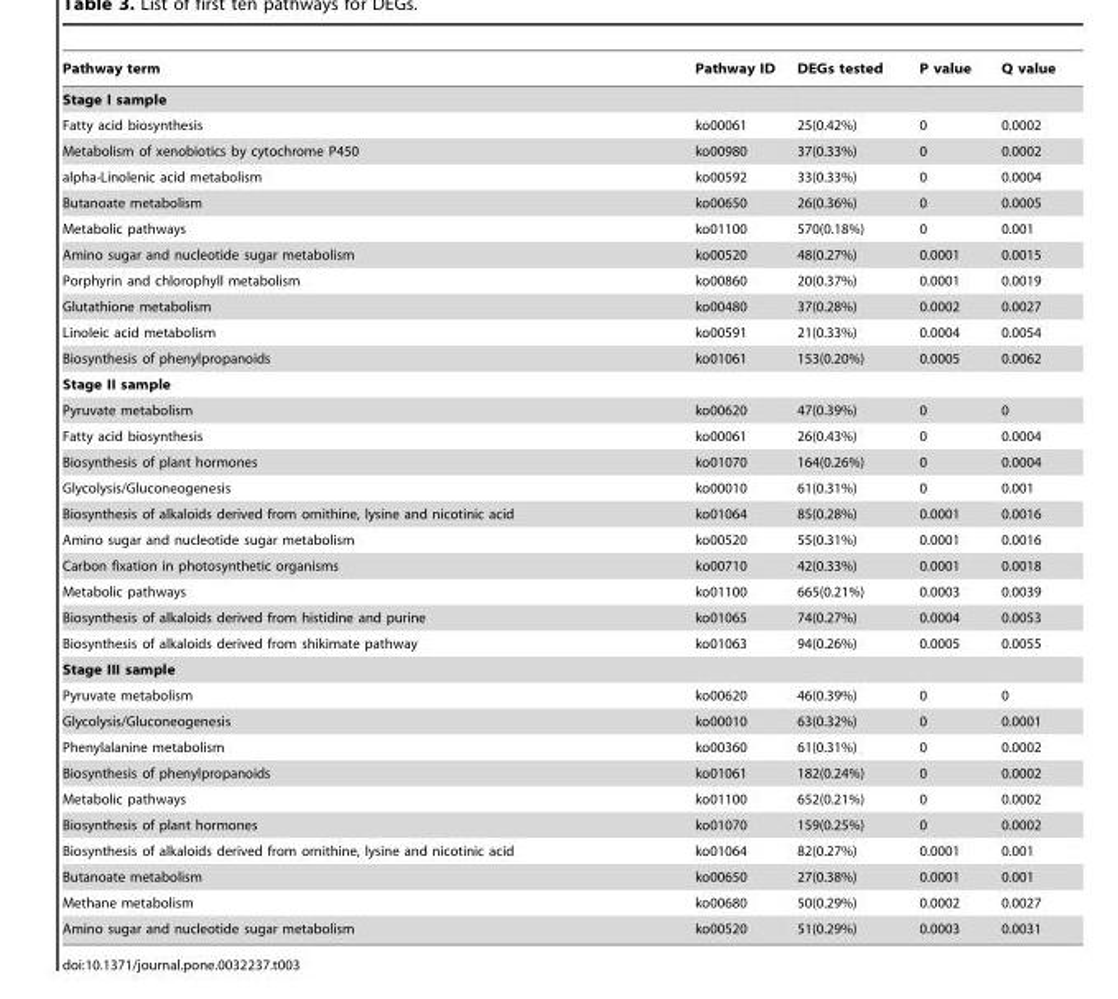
<table><thead><tr><td>Pathway term</td><td>Pathway ID</td><td>DEGs tested</td><td>P value</td><td>Q value</td></tr></thead><tbody><tr><td colspan="5">Stage I sample</td></tr><tr><td>Fatty acid biosynthesis</td><td>ko00061</td><td>25(0.42%)</td><td>0</td><td>0.0002</td></tr><tr><td>Metabolism of xenobiotics by cytochrome P450</td><td>ko00980</td><td>37(0.33%)</td><td>0</td><td>0.0002</td></tr><tr><td>alpha-Linolenic acid metabolism</td><td>ko00592</td><td>33(0.33%)</td><td>0</td><td>0.0004</td></tr><tr><td>Butanoate metabolism</td><td>ko00650</td><td>26(0.36%)</td><td>0</td><td>0.0005</td></tr><tr><td>Metabolic pathways</td><td>ko01100</td><td>570(0.18%)</td><td>0</td><td>0.001</td></tr><tr><td>Amino sugar and nucleotide sugar metabolism</td><td>ko00520</td><td>48(0.27%)</td><td>0.0001</td><td>0.0015</td></tr><tr><td>Porphyrin and chlorophyll metabolism</td><td>ko00860</td><td>20(0.37%)</td><td>0.0001</td><td>0.0019</td></tr><tr><td>Glutathione metabolism</td><td>ko00480</td><td>37(0.28%)</td><td>0.0002</td><td>0.0027</td></tr><tr><td>Linoleic acid metabolism</td><td>ko00591</td><td>21(0.33%)</td><td>0.0004</td><td>0.0054</td></tr><tr><td>Biosynthesis of phenylpropanoids</td><td>ko01061</td><td>153(0.20%)</td><td>0.0005</td><td>0.0062</td></tr><tr><td colspan="5">Stage II sample</td></tr><tr><td>Pyruvate metabolism</td><td>ko00620</td><td>47(0.39%)</td><td>0</td><td>0</td></tr><tr><td>Fatty acid biosynthesis</td><td>ko00061</td><td>26(0.43%)</td><td>0</td><td>0.0004</td></tr><tr><td>Biosynthesis of plant hormones</td><td>ko01070</td><td>164(0.26%)</td><td>0</td><td>0.0004</td></tr><tr><td>Glycolysis/Gluconeogenesis</td><td>ko00010</td><td>61(0.31%)</td><td>0</td><td>0.001</td></tr><tr><td>Biosynthesis of alkaloids derived from ornithine, lysine and nicotinic acid</td><td>ko01064</td><td>85(0.28%)</td><td>0.0001</td><td>0.0016</td></tr><tr><td>Amino sugar and nucleotide sugar metabolism</td><td>ko00520</td><td>55(0.31%)</td><td>0.0001</td><td>0.0016</td></tr><tr><td>Carbon fixation in photosynthetic organisms</td><td>ko00710</td><td>42(0.33%)</td><td>0.0001</td><td>0.0018</td></tr><tr><td>Metabolic pathways</td><td>ko01100</td><td>665(0.21%)</td><td>0.0003</td><td>0.0039</td></tr><tr><td>Biosynthesis of alkaloids derived from histidine and purine</td><td>ko01065</td><td>74(0.27%)</td><td>0.0004</td><td>0.0053</td></tr><tr><td>Biosynthesis of alkaloids derived from shikimate pathway</td><td>ko01063</td><td>94(0.26%)</td><td>0.0005</td><td>0.0055</td></tr><tr><td colspan="5">Stage III sample</td></tr><tr><td>Pyruvate metabolism</td><td>ko00620</td><td>46(0.39%)</td><td>0</td><td>0</td></tr><tr><td>Glycolysis/Gluconeogenesis</td><td>ko00010</td><td>63(0.32%)</td><td>0</td><td>0.0001</td></tr><tr><td>Phenylalanine metabolism</td><td>ko00360</td><td>61(0.31%)</td><td>0</td><td>0.0002</td></tr><tr><td>Biosynthesis of phenylpropanoids</td><td>ko01061</td><td>182(0.24%)</td><td>0</td><td>0.0002</td></tr><tr><td>Metabolic pathways</td><td>ko01100</td><td>652(0.21%)</td><td>0</td><td>0.0002</td></tr><tr><td>Biosynthesis of plant hormones</td><td>ko01070</td><td>159(0.25%)</td><td>0</td><td>0.0002</td></tr><tr><td>Biosynthesis of alkaloids derived from ornithine, lysine and nicotinic acid</td><td>ko01064</td><td>82(0.27%)</td><td>0.0001</td><td>0.001</td></tr><tr><td>Butanoate metabolism</td><td>ko00650</td><td>27(0.38%)</td><td>0.0001</td><td>0.001</td></tr><tr><td>Methane metabolism</td><td>ko00680</td><td>50(0.29%)</td><td>0.0002</td><td>0.0027</td></tr><tr><td>Amino sugar and nucleotide sugar metabolism</td><td>ko00520</td><td>51(0.29%)</td><td>0.0003</td><td>0.0031</td></tr></tbody></table>